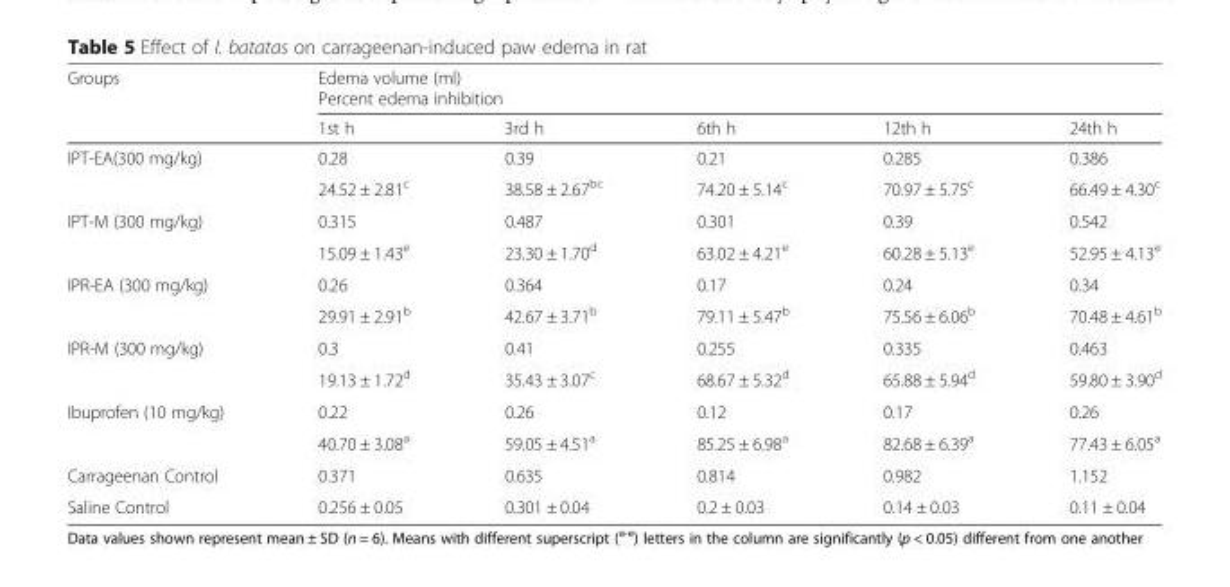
<table><thead><tr><td rowspan="2">Groups</td><td colspan="5">Edema volume (ml) Percent edema inhibition</td></tr><tr><td>1st h</td><td>3rd h</td><td>6th h</td><td>12th h</td><td>24th h</td></tr></thead><tbody><tr><td rowspan="2">IPT-EA(300 mg/kg)</td><td>0.28</td><td>0.39</td><td>0.21</td><td>0.285</td><td>0.386</td></tr><tr><td>24.52 ± 2.81<sup>c</sup></td><td>38.58 ± 2.67<sup>bc</sup></td><td>74.20 ± 5.14<sup>c</sup></td><td>70.97 ± 5.75<sup>c</sup></td><td>66.49 ± 4.30<sup>c</sup></td></tr><tr><td rowspan="2">IPT-M (300 mg/kg)</td><td>0.315</td><td>0.487</td><td>0.301</td><td>0.39</td><td>0.542</td></tr><tr><td>15.09 ± 1.43<sup>e</sup></td><td>23.30 ± 1.70<sup>d</sup></td><td>63.02 ± 4.21<sup>e</sup></td><td>60.28 ± 5.13<sup>e</sup></td><td>52.95 ± 4.13<sup>e</sup></td></tr><tr><td rowspan="2">IPR-EA (300 mg/kg)</td><td>0.26</td><td>0.364</td><td>0.17</td><td>0.24</td><td>0.34</td></tr><tr><td>29.91 ± 2.91<sup>b</sup></td><td>42.67 ± 3.71<sup>b</sup></td><td>79.11 ± 5.47<sup>b</sup></td><td>75.56 ± 6.06<sup>b</sup></td><td>70.48 ± 4.61<sup>b</sup></td></tr><tr><td rowspan="2">IPR-M (300 mg/kg)</td><td>0.3</td><td>0.41</td><td>0.255</td><td>0.335</td><td>0.463</td></tr><tr><td>19.13 ± 1.72<sup>d</sup></td><td>35.43 ± 3.07<sup>c</sup></td><td>68.67 ± 5.32<sup>d</sup></td><td>65.88 ± 5.94<sup>d</sup></td><td>59.80 ± 3.90<sup>d</sup></td></tr><tr><td rowspan="2">Ibuprofen (10 mg/kg)</td><td>0.22</td><td>0.26</td><td>0.12</td><td>0.17</td><td>0.26</td></tr><tr><td>40.70 ± 3.08<sup>a</sup></td><td>59.05 ± 4.51<sup>a</sup></td><td>85.25 ± 6.98<sup>a</sup></td><td>82.68 ± 6.39<sup>a</sup></td><td>77.43 ± 6.05<sup>a</sup></td></tr><tr><td>Carrageenan Control</td><td>0.371</td><td>0.635</td><td>0.814</td><td>0.982</td><td>1.152</td></tr><tr><td>Saline Control</td><td>0.256 ± 0.05</td><td>0.301 ± 0.04</td><td>0.2 ± 0.03</td><td>0.14 ± 0.03</td><td>0.11 ± 0.04</td></tr></tbody></table>